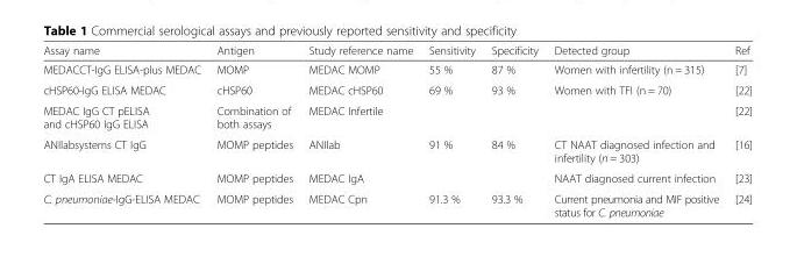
<table><thead><tr><td>Assay name</td><td>Antigen</td><td>Study reference name</td><td>Sensitivity</td><td>Specificity</td><td>Detected group</td><td>Ref</td></tr></thead><tbody><tr><td>MEDACCT-IgG ELISA-plus MEDAC</td><td>MOMP</td><td>MEDAC MOMP</td><td>55 %</td><td>87 %</td><td>Women with infertility (n = 315)</td><td>[7]</td></tr><tr><td>cHSP60-IgG ELISA MEDAC</td><td>cHSP60</td><td>MEDAC cHSP60</td><td>69 %</td><td>93 %</td><td>Women with TFI (n = 70)</td><td>[22]</td></tr><tr><td>MEDAC IgG CT pELISA and cHSP60 IgG ELISA</td><td>Combination of both assays</td><td>MEDAC Infertile</td><td></td><td></td><td></td><td>[22]</td></tr><tr><td>ANIlabsystems CT IgG</td><td>MOMP peptides</td><td>ANIlab</td><td>91 %</td><td>84 %</td><td>CT NAAT diagnosed infection and infertility (n = 303)</td><td>[16]</td></tr><tr><td>CT IgA ELISA MEDAC</td><td>MOMP peptides</td><td>MEDAC IgA</td><td></td><td></td><td>NAAT diagnosed current infection</td><td>[23]</td></tr><tr><td>C. pneumoniae-IgG-ELISA MEDAC</td><td>MOMP peptides</td><td>MEDAC Cpn</td><td>91.3 %</td><td>93.3 %</td><td>Current pneumonia and MIF positive status for C. pneumoniae</td><td>[24]</td></tr></tbody></table>